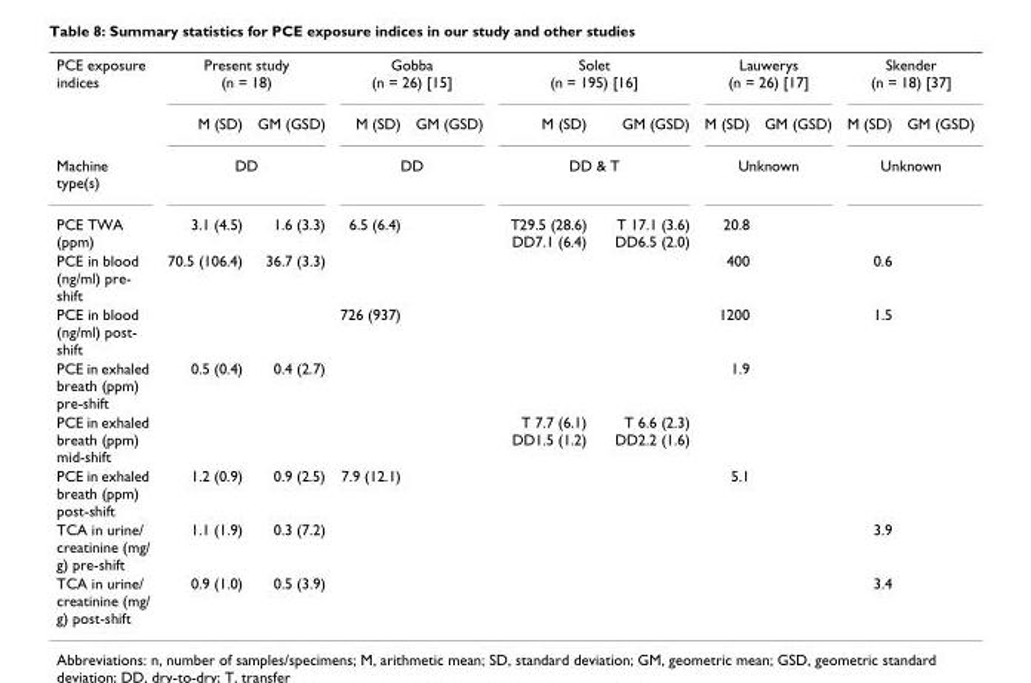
<table><tbody><tr><td rowspan="2">PCE exposure indices</td><td colspan="2">Present study (n = 18)</td><td colspan="2">Gobba (n = 26) [15]</td><td colspan="2">Solet (n = 195) [16]</td><td colspan="2">Lauwerys (n = 26) [17]</td><td colspan="2">Skender (n = 18) [37]</td></tr><tr><td>M (SD)</td><td>GM (GSD)</td><td>M (SD)</td><td>GM (GSD)</td><td>M (SD)</td><td>GM (GSD)</td><td>M (SD)</td><td>GM (GSD)</td><td>M (SD)</td><td>GM (GSD)</td></tr><tr><td>Machine type(s)</td><td colspan="2">DD</td><td colspan="2">DD</td><td colspan="2">DD &amp; T</td><td colspan="2">Unknown</td><td colspan="2">Unknown</td></tr><tr><td>PCE TWA (ppm)</td><td>3.1 (4.5)</td><td>1.6 (3.3)</td><td>6.5 (6.4)</td><td></td><td>T29.5 (28.6) DD7.1 (6.4)</td><td>T 17.1 (3.6) DD6.5 (2.0)</td><td>20.8</td><td></td><td></td><td></td></tr><tr><td>PCE in blood (ng/ml) pre- shift</td><td>70.5 (106.4)</td><td>36.7 (3.3)</td><td></td><td></td><td></td><td></td><td>400</td><td></td><td>0.6</td><td></td></tr><tr><td>PCE in blood (ng/ml) post- shift</td><td></td><td></td><td>726 (937)</td><td></td><td></td><td></td><td>1200</td><td></td><td>1.5</td><td></td></tr><tr><td>PCE in exhaled breath (ppm) pre-shift</td><td>0.5 (0.4)</td><td>0.4 (2.7)</td><td></td><td></td><td></td><td></td><td>1.9</td><td></td><td></td><td></td></tr><tr><td>PCE in exhaled breath (ppm) mid-shift</td><td></td><td></td><td></td><td></td><td>T 7.7 (6.1) DD1.5 (1.2)</td><td>T 6.6 (2.3) DD2.2 (1.6)</td><td></td><td></td><td></td><td></td></tr><tr><td>PCE in exhaled breath (ppm) post-shift</td><td>1.2 (0.9)</td><td>0.9 (2.5)</td><td>7.9 (12.1)</td><td></td><td></td><td></td><td>5.1</td><td></td><td></td><td></td></tr><tr><td>TCA in urine/ creatinine (mg/ g) pre-shift</td><td>1.1 (1.9)</td><td>0.3 (7.2)</td><td></td><td></td><td></td><td></td><td></td><td></td><td>3.9</td><td></td></tr><tr><td>TCA in urine/ creatinine (mg/ g) post-shift</td><td>0.9 (1.0)</td><td>0.5 (3.9)</td><td></td><td></td><td></td><td></td><td></td><td></td><td>3.4</td><td></td></tr></tbody></table>